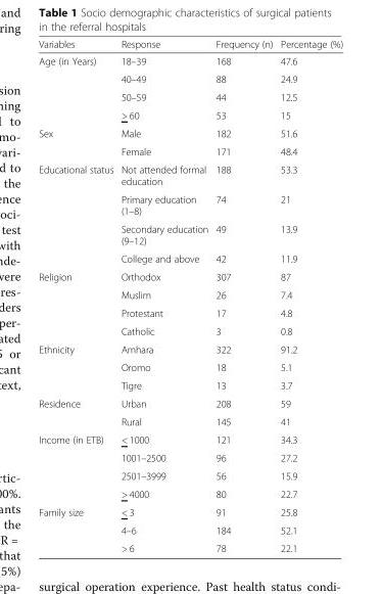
<table><thead><tr><td>Variables</td><td>Response</td><td>Frequency (n)</td><td>Percentage (%)</td></tr></thead><tbody><tr><td rowspan="4">Age (in Years)</td><td>18–39</td><td>168</td><td>47.6</td></tr><tr><td>40–49</td><td>88</td><td>24.9</td></tr><tr><td>50–59</td><td>44</td><td>12.5</td></tr><tr><td>&gt; 60</td><td>53</td><td>15</td></tr><tr><td rowspan="2">Sex</td><td>Male</td><td>182</td><td>51.6</td></tr><tr><td>Female</td><td>171</td><td>48.4</td></tr><tr><td rowspan="4">Educational status</td><td>Not attended formal education</td><td>188</td><td>53.3</td></tr><tr><td>Primary education (1–8)</td><td>74</td><td>21</td></tr><tr><td>Secondary education (9–12)</td><td>49</td><td>13.9</td></tr><tr><td>College and above</td><td>42</td><td>11.9</td></tr><tr><td rowspan="4">Religion</td><td>Orthodox</td><td>307</td><td>87</td></tr><tr><td>Muslim</td><td>26</td><td>7.4</td></tr><tr><td>Protestant</td><td>17</td><td>4.8</td></tr><tr><td>Catholic</td><td>3</td><td>0.8</td></tr><tr><td rowspan="3">Ethnicity</td><td>Amhara</td><td>322</td><td>91.2</td></tr><tr><td>Oromo</td><td>18</td><td>5.1</td></tr><tr><td>Tigre</td><td>13</td><td>3.7</td></tr><tr><td rowspan="2">Residence</td><td>Urban</td><td>208</td><td>59</td></tr><tr><td>Rural</td><td>145</td><td>41</td></tr><tr><td rowspan="4">Income (in ETB)</td><td>&lt; 1000</td><td>121</td><td>34.3</td></tr><tr><td>1001–2500</td><td>96</td><td>27.2</td></tr><tr><td>2501–3999</td><td>56</td><td>15.9</td></tr><tr><td>&gt; 4000</td><td>80</td><td>22.7</td></tr><tr><td rowspan="3">Family size</td><td>&lt; 3</td><td>91</td><td>25.8</td></tr><tr><td>4–6</td><td>184</td><td>52.1</td></tr><tr><td>&gt; 6</td><td>78</td><td>22.1</td></tr></tbody></table>